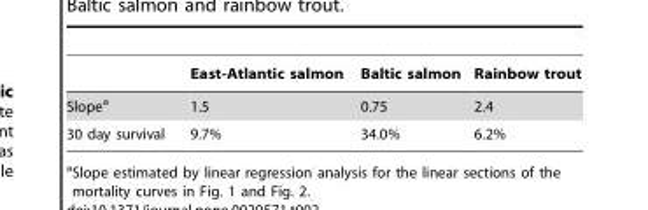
<table><thead><tr><td></td><td>East-Atlantic salmon</td><td>Baltic salmon</td><td>Rainbow trout</td></tr></thead><tbody><tr><td>Slope<sup>a</sup></td><td>1.5</td><td>0.75</td><td>2.4</td></tr><tr><td>30 day survival</td><td>9.7%</td><td>34.0%</td><td>6.2%</td></tr></tbody></table>